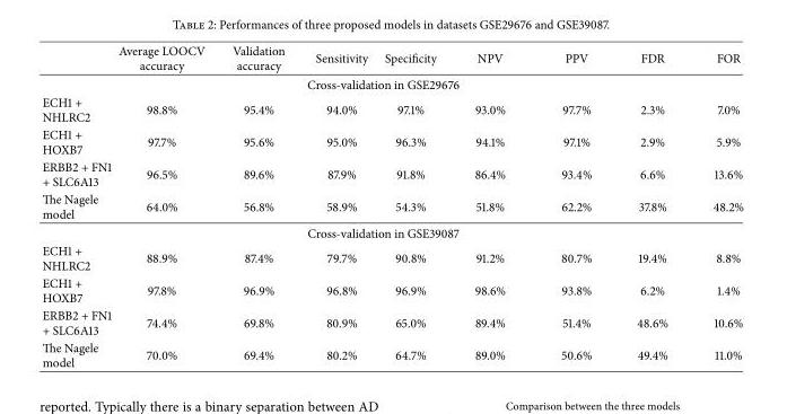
<table><thead><tr><td></td><td>Average LOOCV accuracy</td><td>Validation accuracy</td><td>Sensitivity</td><td>Specificity</td><td>NPV</td><td>PPV</td><td>FDR</td><td>FOR</td></tr></thead><tbody><tr><td colspan="9">Cross-validation in GSE29676</td></tr><tr><td>ECH1 + NHLRC2</td><td>98.8%</td><td>95.4%</td><td>94.0%</td><td>97.1%</td><td>93.0%</td><td>97.7%</td><td>2.3%</td><td>7.0%</td></tr><tr><td>ECH1 + HOXB7</td><td>97.7%</td><td>95.6%</td><td>95.0%</td><td>96.3%</td><td>94.1%</td><td>97.1%</td><td>2.9%</td><td>5.9%</td></tr><tr><td>ERBB2 + FN1 + SLC6A13</td><td>96.5%</td><td>89.6%</td><td>87.9%</td><td>91.8%</td><td>86.4%</td><td>93.4%</td><td>6.6%</td><td>13.6%</td></tr><tr><td>The Nagele model</td><td>64.0%</td><td>56.8%</td><td>58.9%</td><td>54.3%</td><td>51.8%</td><td>62.2%</td><td>37.8%</td><td>48.2%</td></tr><tr><td colspan="9">Cross-validation in GSE39087</td></tr><tr><td>ECH1 + NHLRC2</td><td>88.9%</td><td>87.4%</td><td>79.7%</td><td>90.8%</td><td>91.2%</td><td>80.7%</td><td>19.4%</td><td>8.8%</td></tr><tr><td>ECH1 + HOXB7</td><td>97.8%</td><td>96.9%</td><td>96.8%</td><td>96.9%</td><td>98.6%</td><td>93.8%</td><td>6.2%</td><td>1.4%</td></tr><tr><td>ERBB2 + FN1 + SLC6A13</td><td>74.4%</td><td>69.8%</td><td>80.9%</td><td>65.0%</td><td>89.4%</td><td>51.4%</td><td>48.6%</td><td>10.6%</td></tr><tr><td>The Nagele model</td><td>70.0%</td><td>69.4%</td><td>80.2%</td><td>64.7%</td><td>89.0%</td><td>50.6%</td><td>49.4%</td><td>11.0%</td></tr></tbody></table>